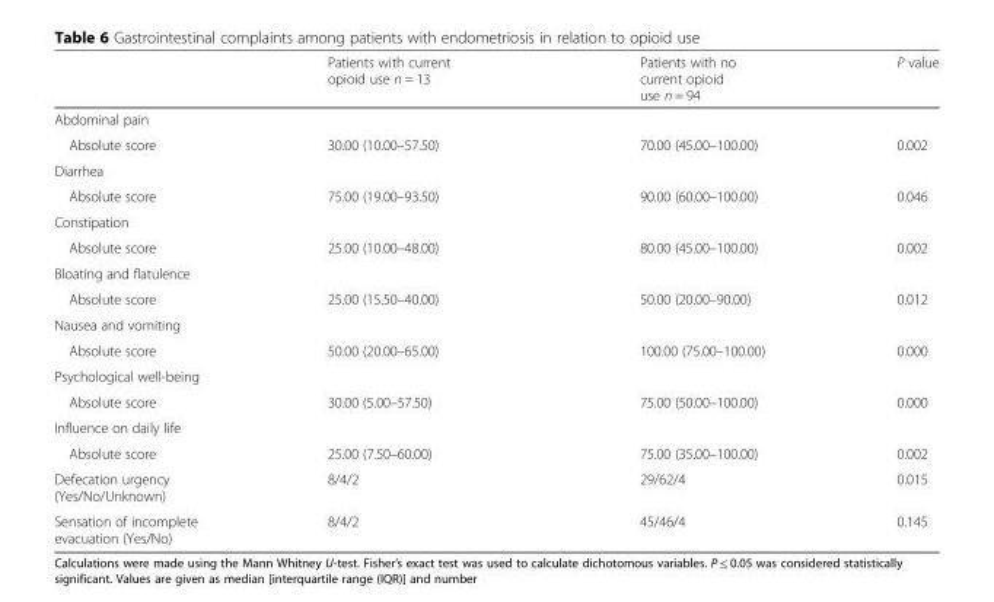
<table><thead><tr><td></td><td>Patients with current opioid use n = 13</td><td>Patients with no current opioid use n = 94</td><td>P value</td></tr></thead><tbody><tr><td colspan="4">Abdominal pain</td></tr><tr><td>Absolute score</td><td>30.00 (10.00–57.50)</td><td>70.00 (45.00–100.00)</td><td>0.002</td></tr><tr><td colspan="4">Diarrhea</td></tr><tr><td>Absolute score</td><td>75.00 (19.00–93.50)</td><td>90.00 (60.00–100.00)</td><td>0.046</td></tr><tr><td colspan="4">Constipation</td></tr><tr><td>Absolute score</td><td>25.00 (10.00–48.00)</td><td>80.00 (45.00–100.00)</td><td>0.002</td></tr><tr><td colspan="4">Bloating and flatulence</td></tr><tr><td>Absolute score</td><td>25.00 (15.50–40.00)</td><td>50.00 (20.00–90.00)</td><td>0.012</td></tr><tr><td colspan="4">Nausea and vomiting</td></tr><tr><td>Absolute score</td><td>50.00 (20.00–65.00)</td><td>100.00 (75.00–100.00)</td><td>0.000</td></tr><tr><td colspan="4">Psychological well-being</td></tr><tr><td>Absolute score</td><td>30.00 (5.00–57.50)</td><td>75.00 (50.00–100.00)</td><td>0.000</td></tr><tr><td colspan="4">Influence on daily life</td></tr><tr><td>Absolute score</td><td>25.00 (7.50–60.00)</td><td>75.00 (35.00–100.00)</td><td>0.002</td></tr><tr><td>Defecation urgency (Yes/No/Unknown)</td><td>8/4/2</td><td>29/62/4</td><td>0.015</td></tr><tr><td>Sensation of incomplete evacuation (Yes/No)</td><td>8/4/2</td><td>45/46/4</td><td>0.145</td></tr></tbody></table>